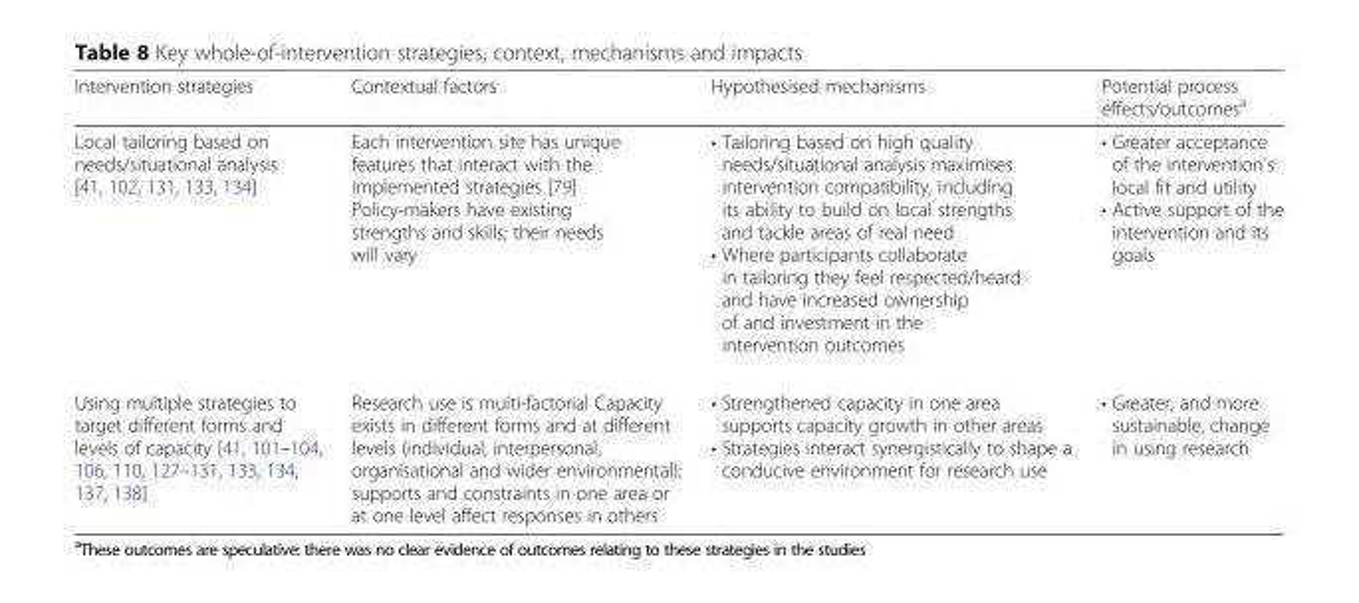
<table><thead><tr><td>Intervention strategies</td><td>Contextual factors</td><td>Hypothesised mechanisms</td><td>Potential process effects/outcomes<sup>a</sup></td></tr></thead><tbody><tr><td>Local tailoring based on needs/situational analysis [41, 102, 131, 133, 134]</td><td>Each intervention site has unique features that interact with the implemented strategies [79] Policy-makers have existing strengths and skills; their needs will vary</td><td>• Tailoring based on high quality needs/situational analysis maximises intervention compatibility, including its ability to build on local strengths and tackle areas of real need • Where participants collaborate in tailoring they feel respected/heard and have increased ownership of and investment in the intervention outcomes</td><td>• Greater acceptance of the intervention’s local fit and utility • Active support of the intervention and its goals</td></tr><tr><td>Using multiple strategies to target different forms and levels of capacity [41, 101–104, 106, 110, 127–131, 133, 134, 137, 138]</td><td>Research use is multi-factorial Capacity exists in different forms and at different levels (individual, interpersonal, organisational and wider environmental); supports and constraints in one area or at one level affect responses in others</td><td>• Strengthened capacity in one area supports capacity growth in other areas • Strategies interact synergistically to shape a conducive environment for research use</td><td>• Greater, and more sustainable, change in using research</td></tr></tbody></table>